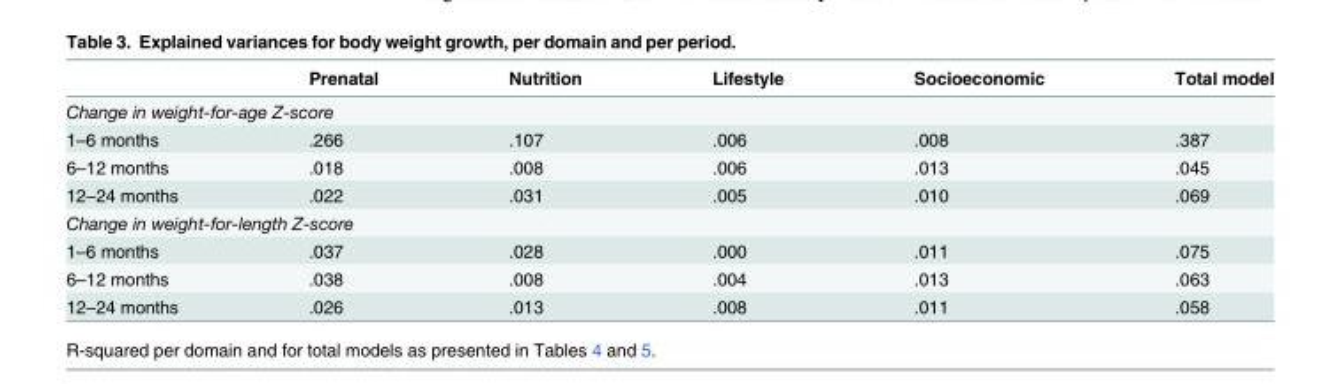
<table><thead><tr><td></td><td>Prenatal</td><td>Nutrition</td><td>Lifestyle</td><td>Socioeconomic</td><td>Total model</td></tr></thead><tbody><tr><td colspan="6">Change in weight-for-age Z-score</td></tr><tr><td>1–6 months</td><td>.266</td><td>.107</td><td>.006</td><td>.008</td><td>.387</td></tr><tr><td>6–12 months</td><td>.018</td><td>.008</td><td>.006</td><td>.013</td><td>.045</td></tr><tr><td>12–24 months</td><td>.022</td><td>.031</td><td>.005</td><td>.010</td><td>.069</td></tr><tr><td colspan="6">Change in weight-for-length Z-score</td></tr><tr><td>1–6 months</td><td>.037</td><td>.028</td><td>.000</td><td>.011</td><td>.075</td></tr><tr><td>6–12 months</td><td>.038</td><td>.008</td><td>.004</td><td>.013</td><td>.063</td></tr><tr><td>12–24 months</td><td>.026</td><td>.013</td><td>.008</td><td>.011</td><td>.058</td></tr></tbody></table>